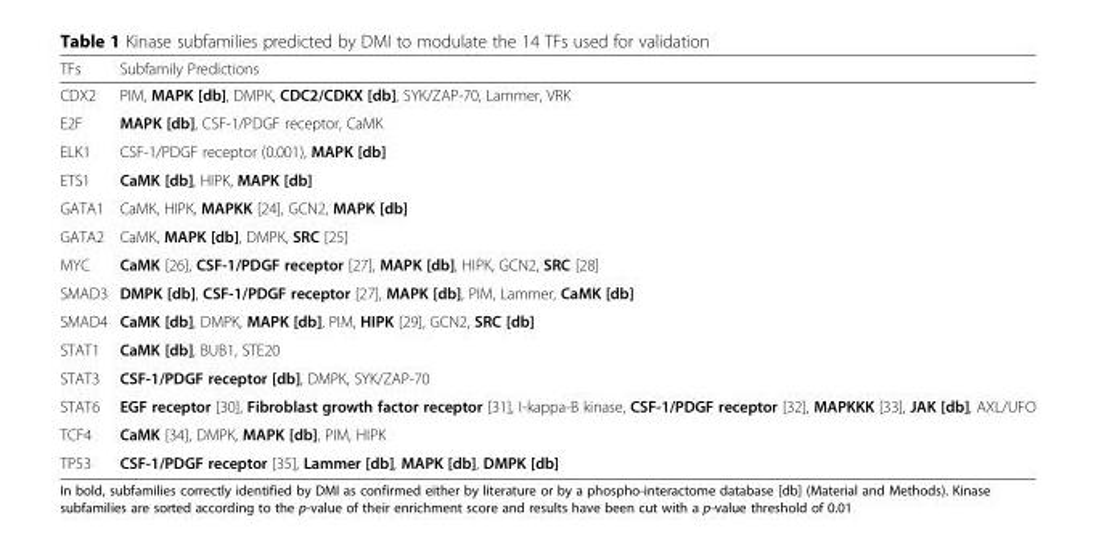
<table><thead><tr><td>TFs</td><td>Subfamily Predictions</td></tr></thead><tbody><tr><td>CDX2</td><td>PIM, MAPK [db], DMPK, CDC2/CDKX [db], SYK/ZAP-70, Lammer, VRK</td></tr><tr><td>E2F</td><td>MAPK [db], CSF-1/PDGF receptor, CaMK</td></tr><tr><td>ELK1</td><td>CSF-1/PDGF receptor (0.001), MAPK [db]</td></tr><tr><td>ETS1</td><td>CaMK [db], HIPK, MAPK [db]</td></tr><tr><td>GATA1</td><td>CaMK, HIPK, MAPKK [24], GCN2, MAPK [db]</td></tr><tr><td>GATA2</td><td>CaMK, MAPK [db], DMPK, SRC [25]</td></tr><tr><td>MYC</td><td>CaMK [26], CSF-1/PDGF receptor [27], MAPK [db], HIPK, GCN2, SRC [28]</td></tr><tr><td>SMAD3</td><td>DMPK [db], CSF-1/PDGF receptor [27], MAPK [db], PIM, Lammer, CaMK [db]</td></tr><tr><td>SMAD4</td><td>CaMK [db], DMPK, MAPK [db], PIM, HIPK [29], GCN2, SRC [db]</td></tr><tr><td>STAT1</td><td>CaMK [db], BUB1, STE20</td></tr><tr><td>STAT3</td><td>CSF-1/PDGF receptor [db], DMPK, SYK/ZAP-70</td></tr><tr><td>STAT6</td><td>EGF receptor [30], Fibroblast growth factor receptor [31], I-kappa-B kinase, CSF-1/PDGF receptor [32], MAPKKK [33], JAK [db], AXL/UFO</td></tr><tr><td>TCF4</td><td>CaMK [34], DMPK, MAPK [db], PIM, HIPK</td></tr><tr><td>TP53</td><td>CSF-1/PDGF receptor [35], Lammer [db], MAPK [db], DMPK [db]</td></tr></tbody></table>